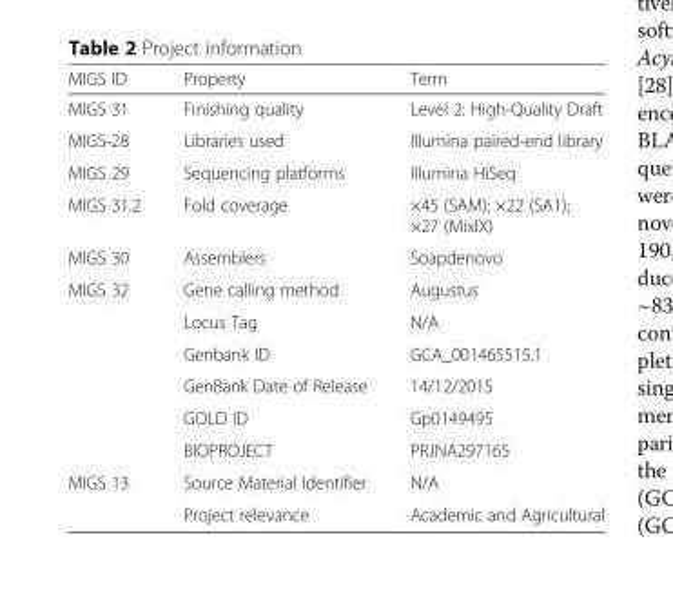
<table><thead><tr><td>MIGS ID</td><td>Property</td><td>Term</td></tr></thead><tbody><tr><td>MIGS 31</td><td>Finishing quality</td><td>Level 2: High-Quality Draft</td></tr><tr><td>MIGS-28</td><td>Libraries used</td><td>Illumina paired-end library</td></tr><tr><td>MIGS 29</td><td>Sequencing platforms</td><td>Illumina HiSeq</td></tr><tr><td>MIGS 31.2</td><td>Fold coverage</td><td>×45 (SAM); ×22 (SA1); ×27 (MixIX)</td></tr><tr><td>MIGS 30</td><td>Assemblers</td><td>Soapdenovo</td></tr><tr><td rowspan="6">MIGS 32</td><td>Gene calling method</td><td>Augustus</td></tr><tr><td>Locus Tag</td><td>N/A</td></tr><tr><td>Genbank ID</td><td>GCA_001465515.1</td></tr><tr><td>GenBank Date of Release</td><td>14/12/2015</td></tr><tr><td>GOLD ID</td><td>Gp0149495</td></tr><tr><td>BIOPROJECT</td><td>PRJNA297165</td></tr><tr><td rowspan="2">MIGS 13</td><td>Source Material Identifier</td><td>N/A</td></tr><tr><td>Project relevance</td><td>Academic and Agricultural</td></tr></tbody></table>